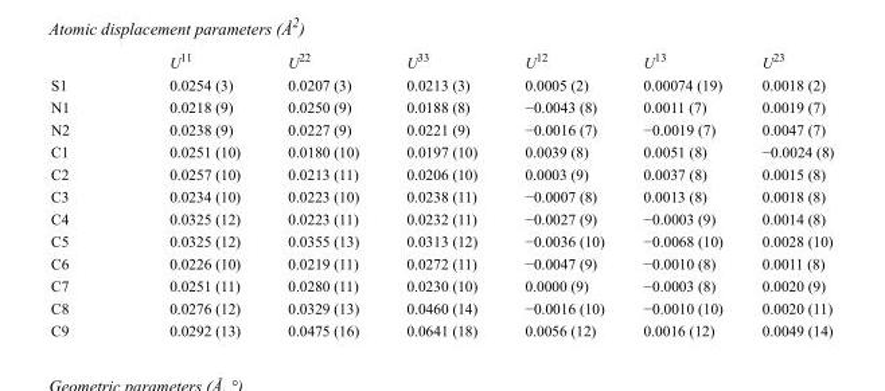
<table><thead><tr><td></td><td>U<sup>11</sup></td><td>U<sup>22</sup></td><td>U<sup>33</sup></td><td>U<sup>12</sup></td><td>U<sup>13</sup></td><td>U<sup>23</sup></td></tr></thead><tbody><tr><td>S1</td><td>0.0254 (3)</td><td>0.0207 (3)</td><td>0.0213 (3)</td><td>0.0005 (2)</td><td>0.00074 (19)</td><td>0.0018 (2)</td></tr><tr><td>N1</td><td>0.0218 (9)</td><td>0.0250 (9)</td><td>0.0188 (8)</td><td>−0.0043 (8)</td><td>0.0011 (7)</td><td>0.0019 (7)</td></tr><tr><td>N2</td><td>0.0238 (9)</td><td>0.0227 (9)</td><td>0.0221 (9)</td><td>−0.0016 (7)</td><td>−0.0019 (7)</td><td>0.0047 (7)</td></tr><tr><td>C1</td><td>0.0251 (10)</td><td>0.0180 (10)</td><td>0.0197 (10)</td><td>0.0039 (8)</td><td>0.0051 (8)</td><td>−0.0024 (8)</td></tr><tr><td>C2</td><td>0.0257 (10)</td><td>0.0213 (11)</td><td>0.0206 (10)</td><td>0.0003 (9)</td><td>0.0037 (8)</td><td>0.0015 (8)</td></tr><tr><td>C3</td><td>0.0234 (10)</td><td>0.0223 (10)</td><td>0.0238 (11)</td><td>−0.0007 (8)</td><td>0.0013 (8)</td><td>0.0018 (8)</td></tr><tr><td>C4</td><td>0.0325 (12)</td><td>0.0223 (11)</td><td>0.0232 (11)</td><td>−0.0027 (9)</td><td>−0.0003 (9)</td><td>0.0014 (8)</td></tr><tr><td>C5</td><td>0.0325 (12)</td><td>0.0355 (13)</td><td>0.0313 (12)</td><td>−0.0036 (10)</td><td>−0.0068 (10)</td><td>0.0028 (10)</td></tr><tr><td>C6</td><td>0.0226 (10)</td><td>0.0219 (11)</td><td>0.0272 (11)</td><td>−0.0047 (9)</td><td>−0.0010 (8)</td><td>0.0011 (8)</td></tr><tr><td>C7</td><td>0.0251 (11)</td><td>0.0280 (11)</td><td>0.0230 (10)</td><td>0.0000 (9)</td><td>−0.0003 (8)</td><td>0.0020 (9)</td></tr><tr><td>C8</td><td>0.0276 (12)</td><td>0.0329 (13)</td><td>0.0460 (14)</td><td>−0.0016 (10)</td><td>−0.0010 (10)</td><td>0.0020 (11)</td></tr><tr><td>C9</td><td>0.0292 (13)</td><td>0.0475 (16)</td><td>0.0641 (18)</td><td>0.0056 (12)</td><td>0.0016 (12)</td><td>0.0049 (14)</td></tr></tbody></table>